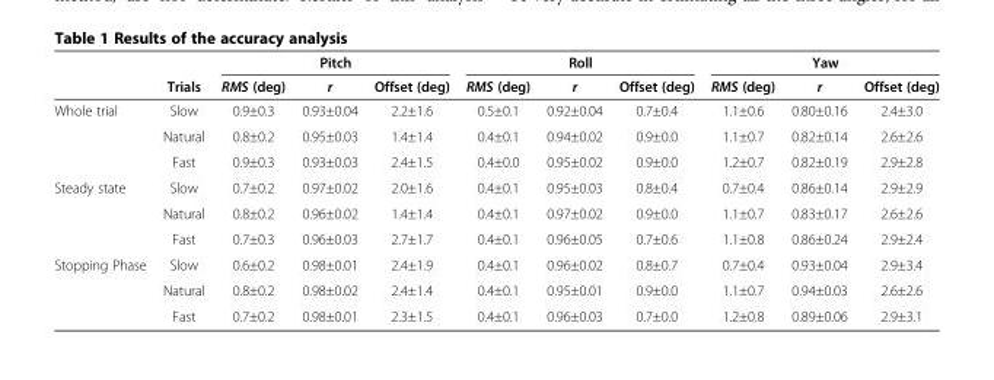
<table><thead><tr><td rowspan="2"></td><td rowspan="2">Trials</td><td colspan="3">Pitch</td><td colspan="3">Roll</td><td colspan="3">Yaw</td></tr><tr><td>RMS (deg)</td><td>r</td><td>Offset (deg)</td><td>RMS (deg)</td><td>r</td><td>Offset (deg)</td><td>RMS (deg)</td><td>r</td><td>Offset (deg)</td></tr></thead><tbody><tr><td rowspan="3">Whole trial</td><td>Slow</td><td>0.9±0.3</td><td>0.93±0.04</td><td>2.2±1.6</td><td>0.5±0.1</td><td>0.92±0.04</td><td>0.7±0.4</td><td>1.1±0.6</td><td>0.80±0.16</td><td>2.4±3.0</td></tr><tr><td>Natural</td><td>0.8±0.2</td><td>0.95±0.03</td><td>1.4±1.4</td><td>0.4±0.1</td><td>0.94±0.02</td><td>0.9±0.0</td><td>1.1±0.7</td><td>0.82±0.14</td><td>2.6±2.6</td></tr><tr><td>Fast</td><td>0.9±0.3</td><td>0.93±0.03</td><td>2.4±1.5</td><td>0.4±0.0</td><td>0.95±0.02</td><td>0.9±0.0</td><td>1.2±0.7</td><td>0.82±0.19</td><td>2.9±2.8</td></tr><tr><td rowspan="3">Steady state</td><td>Slow</td><td>0.7±0.2</td><td>0.97±0.02</td><td>2.0±1.6</td><td>0.4±0.1</td><td>0.95±0.03</td><td>0.8±0.4</td><td>0.7±0.4</td><td>0.86±0.14</td><td>2.9±2.9</td></tr><tr><td>Natural</td><td>0.8±0.2</td><td>0.96±0.02</td><td>1.4±1.4</td><td>0.4±0.1</td><td>0.97±0.02</td><td>0.9±0.0</td><td>1.1±0.7</td><td>0.83±0.17</td><td>2.6±2.6</td></tr><tr><td>Fast</td><td>0.7±0.3</td><td>0.96±0.03</td><td>2.7±1.7</td><td>0.4±0.1</td><td>0.96±0.05</td><td>0.7±0.6</td><td>1.1±0.8</td><td>0.86±0.24</td><td>2.9±2.4</td></tr><tr><td rowspan="3">Stopping Phase</td><td>Slow</td><td>0.6±0.2</td><td>0.98±0.01</td><td>2.4±1.9</td><td>0.4±0.1</td><td>0.96±0.02</td><td>0.8±0.7</td><td>0.7±0.4</td><td>0.93±0.04</td><td>2.9±3.4</td></tr><tr><td>Natural</td><td>0.8±0.2</td><td>0.98±0.02</td><td>2.4±1.4</td><td>0.4±0.1</td><td>0.95±0.01</td><td>0.9±0.0</td><td>1.1±0.7</td><td>0.94±0.03</td><td>2.6±2.6</td></tr><tr><td>Fast</td><td>0.7±0.2</td><td>0.98±0.01</td><td>2.3±1.5</td><td>0.4±0.1</td><td>0.96±0.03</td><td>0.7±0.0</td><td>1.2±0.8</td><td>0.89±0.06</td><td>2.9±3.1</td></tr></tbody></table>